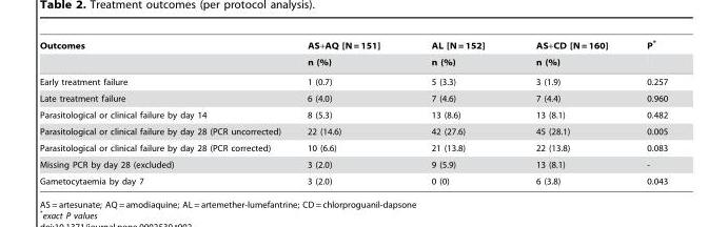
<table><thead><tr><td rowspan="2">Outcomes</td><td rowspan="2">AS+AQ [N = 151] n (%)</td><td rowspan="2">AL [N = 152] n (%)</td><td rowspan="2">AS+CD [N = 160] n (%)</td><td rowspan="2">P*</td></tr><tr></tr></thead><tbody><tr><td>Early treatment failure</td><td>1 (0.7)</td><td>5 (3.3)</td><td>3 (1.9)</td><td>0.257</td></tr><tr><td>Late treatment failure</td><td>6 (4.0)</td><td>7 (4.6)</td><td>7 (4.4)</td><td>0.960</td></tr><tr><td>Parasitological or clinical failure by day 14</td><td>8 (5.3)</td><td>13 (8.6)</td><td>13 (8.1)</td><td>0.482</td></tr><tr><td>Parasitological or clinical failure by day 28 (PCR uncorrected)</td><td>22 (14.6)</td><td>42 (27.6)</td><td>45 (28.1)</td><td>0.005</td></tr><tr><td>Parasitological or clinical failure by day 28 (PCR corrected)</td><td>10 (6.6)</td><td>21 (13.8)</td><td>22 (13.8)</td><td>0.083</td></tr><tr><td>Missing PCR by day 28 (excluded)</td><td>3 (2.0)</td><td>9 (5.9)</td><td>13 (8.1)</td><td>-</td></tr><tr><td>Gametocytaemia by day 7</td><td>3 (2.0)</td><td>0 (0)</td><td>6 (3.8)</td><td>0.043</td></tr></tbody></table>